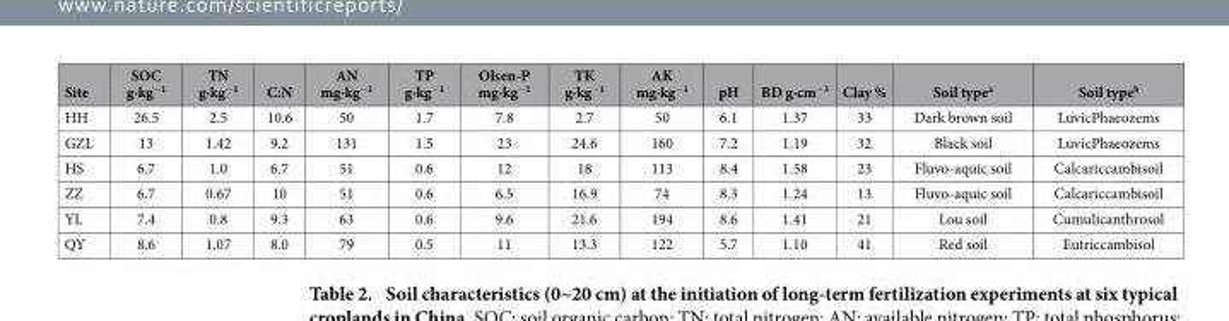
<table><thead><tr><td>Site</td><td>SOC g∙kg<sup>−1</sup></td><td>TN g·kg<sup>−1</sup></td><td>C:N</td><td>AN mg·kg<sup>−1</sup></td><td>TP g·kg<sup>−1</sup></td><td>Olsen-P mg·kg<sup>−1</sup></td><td>TK g·kg<sup>−1</sup></td><td>AK mg·kg<sup>−1</sup></td><td>pH</td><td>BD g∙cm<sup>−3</sup></td><td>Clay %</td><td>Soil type<sup>a</sup></td><td>Soil type<sup>b</sup></td></tr></thead><tbody><tr><td>HH</td><td>26.5</td><td>2.5</td><td>10.6</td><td>50</td><td>1.7</td><td>7.8</td><td>2.7</td><td>50</td><td>6.1</td><td>1.37</td><td>33</td><td>Dark brown soil</td><td>LuvicPhaeozems</td></tr><tr><td>GZL</td><td>13</td><td>1.42</td><td>9.2</td><td>131</td><td>1.5</td><td>23</td><td>24.6</td><td>160</td><td>7.2</td><td>1.19</td><td>32</td><td>Black soil</td><td>LuvicPhaeozems</td></tr><tr><td>HS</td><td>6.7</td><td>1.0</td><td>6.7</td><td>51</td><td>0.6</td><td>12</td><td>18</td><td>113</td><td>8.4</td><td>1.58</td><td>23</td><td>Fluvo-aquic soil</td><td>Calcariccambisoil</td></tr><tr><td>ZZ</td><td>6.7</td><td>0.67</td><td>10</td><td>51</td><td>0.6</td><td>6.5</td><td>16.9</td><td>74</td><td>8.3</td><td>1.24</td><td>13</td><td>Fluvo-aquic soil</td><td>Calcariccambisoil</td></tr><tr><td>YL</td><td>7.4</td><td>0.8</td><td>9.3</td><td>63</td><td>0.6</td><td>9.6</td><td>21.6</td><td>194</td><td>8.6</td><td>1.41</td><td>21</td><td>Lou soil</td><td>Cumulicanthrosol</td></tr><tr><td>QY</td><td>8.6</td><td>1.07</td><td>8.0</td><td>79</td><td>0.5</td><td>11</td><td>13.3</td><td>122</td><td>5.7</td><td>1.10</td><td>41</td><td>Red soil</td><td>Eutriccambisol</td></tr></tbody></table>